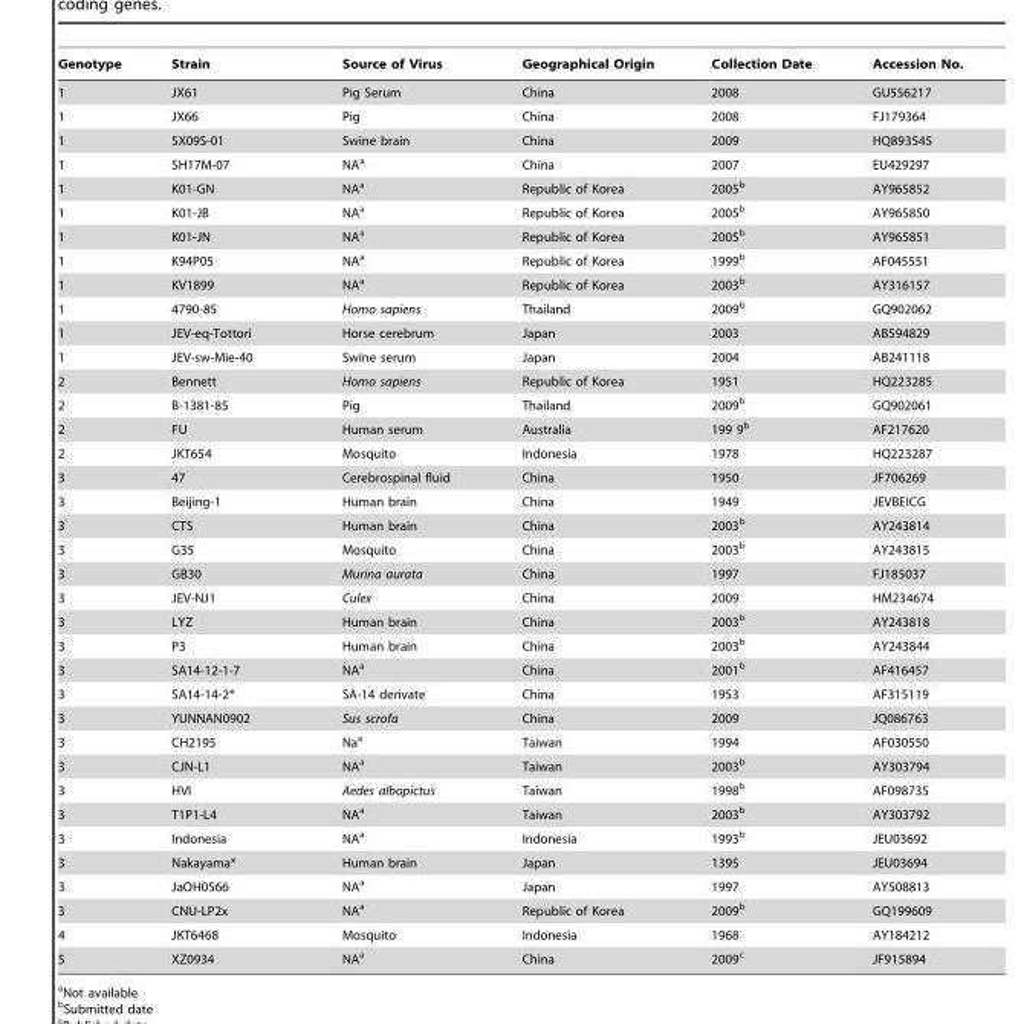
<table><thead><tr><td>Genotype</td><td>Strain</td><td>Source of Virus</td><td>Geographical Origin</td><td>Collection Date</td><td>Accession No.</td></tr></thead><tbody><tr><td>1</td><td>JX61</td><td>Pig Serum</td><td>China</td><td>2008</td><td>GU556217</td></tr><tr><td>1</td><td>JX66</td><td>Pig</td><td>China</td><td>2008</td><td>FJ179364</td></tr><tr><td>1</td><td>SX09S-01</td><td>Swine brain</td><td>China</td><td>2009</td><td>HQ893545</td></tr><tr><td>1</td><td>SH17M-07</td><td>NA<sup>a</sup></td><td>China</td><td>2007</td><td>EU429297</td></tr><tr><td>1</td><td>K01-GN</td><td>NA<sup>a</sup></td><td>Republic of Korea</td><td>2005<sup>b</sup></td><td>AY965852</td></tr><tr><td>1</td><td>K01-JB</td><td>NA<sup>a</sup></td><td>Republic of Korea</td><td>2005<sup>b</sup></td><td>AY965850</td></tr><tr><td>1</td><td>K01-JN</td><td>NA<sup>a</sup></td><td>Republic of Korea</td><td>2005<sup>b</sup></td><td>AY965851</td></tr><tr><td>1</td><td>K94P05</td><td>NA<sup>a</sup></td><td>Republic of Korea</td><td>1999<sup>b</sup></td><td>AF045551</td></tr><tr><td>1</td><td>KV1899</td><td>NA<sup>a</sup></td><td>Republic of Korea</td><td>2003<sup>b</sup></td><td>AY316157</td></tr><tr><td>1</td><td>4790-85</td><td>Homo sapiens</td><td>Thailand</td><td>2009<sup>b</sup></td><td>GQ902062</td></tr><tr><td>1</td><td>JEV-eq-Tottori</td><td>Horse cerebrum</td><td>Japan</td><td>2003</td><td>AB594829</td></tr><tr><td>1</td><td>JEV-sw-Mie-40</td><td>Swine serum</td><td>Japan</td><td>2004</td><td>AB241118</td></tr><tr><td>2</td><td>Bennett</td><td>Homo sapiens</td><td>Republic of Korea</td><td>1951</td><td>HQ223285</td></tr><tr><td>2</td><td>B-1381-85</td><td>Pig</td><td>Thailand</td><td>2009<sup>b</sup></td><td>GQ902061</td></tr><tr><td>2</td><td>FU</td><td>Human serum</td><td>Australia</td><td>199 9<sup>b</sup></td><td>AF217620</td></tr><tr><td>2</td><td>JKT654</td><td>Mosquito</td><td>Indonesia</td><td>1978</td><td>HQ223287</td></tr><tr><td>3</td><td>47</td><td>Cerebrospinal fluid</td><td>China</td><td>1950</td><td>JF706269</td></tr><tr><td>3</td><td>Beijing-1</td><td>Human brain</td><td>China</td><td>1949</td><td>JEVBEICG</td></tr><tr><td>3</td><td>CTS</td><td>Human brain</td><td>China</td><td>2003<sup>b</sup></td><td>AY243814</td></tr><tr><td>3</td><td>G35</td><td>Mosquito</td><td>China</td><td>2003<sup>b</sup></td><td>AY243815</td></tr><tr><td>3</td><td>GB30</td><td>Murina aurata</td><td>China</td><td>1997</td><td>FJ185037</td></tr><tr><td>3</td><td>JEV-NJ1</td><td>Culex</td><td>China</td><td>2009</td><td>HM234674</td></tr><tr><td>3</td><td>LYZ</td><td>Human brain</td><td>China</td><td>2003<sup>b</sup></td><td>AY243818</td></tr><tr><td>3</td><td>P3</td><td>Human brain</td><td>China</td><td>2003<sup>b</sup></td><td>AY243844</td></tr><tr><td>3</td><td>SA14-12-1-7</td><td>NA<sup>a</sup></td><td>China</td><td>2001<sup>b</sup></td><td>AF416457</td></tr><tr><td>3</td><td>SA14-14-2*</td><td>SA-14 derivate</td><td>China</td><td>1953</td><td>AF315119</td></tr><tr><td>3</td><td>YUNNAN0902</td><td>Sus scrofa</td><td>China</td><td>2009</td><td>JQ086763</td></tr><tr><td>3</td><td>CH2195</td><td>Na<sup>a</sup></td><td>Taiwan</td><td>1994</td><td>AF030550</td></tr><tr><td>3</td><td>CJN-L1</td><td>NA<sup>a</sup></td><td>Taiwan</td><td>2003<sup>b</sup></td><td>AY303794</td></tr><tr><td>3</td><td>HVI</td><td>Aedes albopictus</td><td>Taiwan</td><td>1998<sup>b</sup></td><td>AF098735</td></tr><tr><td>3</td><td>T1P1-L4</td><td>NA<sup>a</sup></td><td>Taiwan</td><td>2003<sup>b</sup></td><td>AY303792</td></tr><tr><td>3</td><td>Indonesia</td><td>NA<sup>a</sup></td><td>Indonesia</td><td>1993<sup>b</sup></td><td>JEU03692</td></tr><tr><td>3</td><td>Nakayama*</td><td>Human brain</td><td>Japan</td><td>1395</td><td>JEU03694</td></tr><tr><td>3</td><td>JaOH0566</td><td>NA<sup>a</sup></td><td>Japan</td><td>1997</td><td>AY508813</td></tr><tr><td>3</td><td>CNU-LP2x</td><td>NA<sup>a</sup></td><td>Republic of Korea</td><td>2009<sup>b</sup></td><td>GQ199609</td></tr><tr><td>4</td><td>JKT6468</td><td>Mosquito</td><td>Indonesia</td><td>1968</td><td>AY184212</td></tr><tr><td>5</td><td>XZ0934</td><td>NA<sup>a</sup></td><td>China</td><td>2009<sup>c</sup></td><td>JF915894</td></tr></tbody></table>